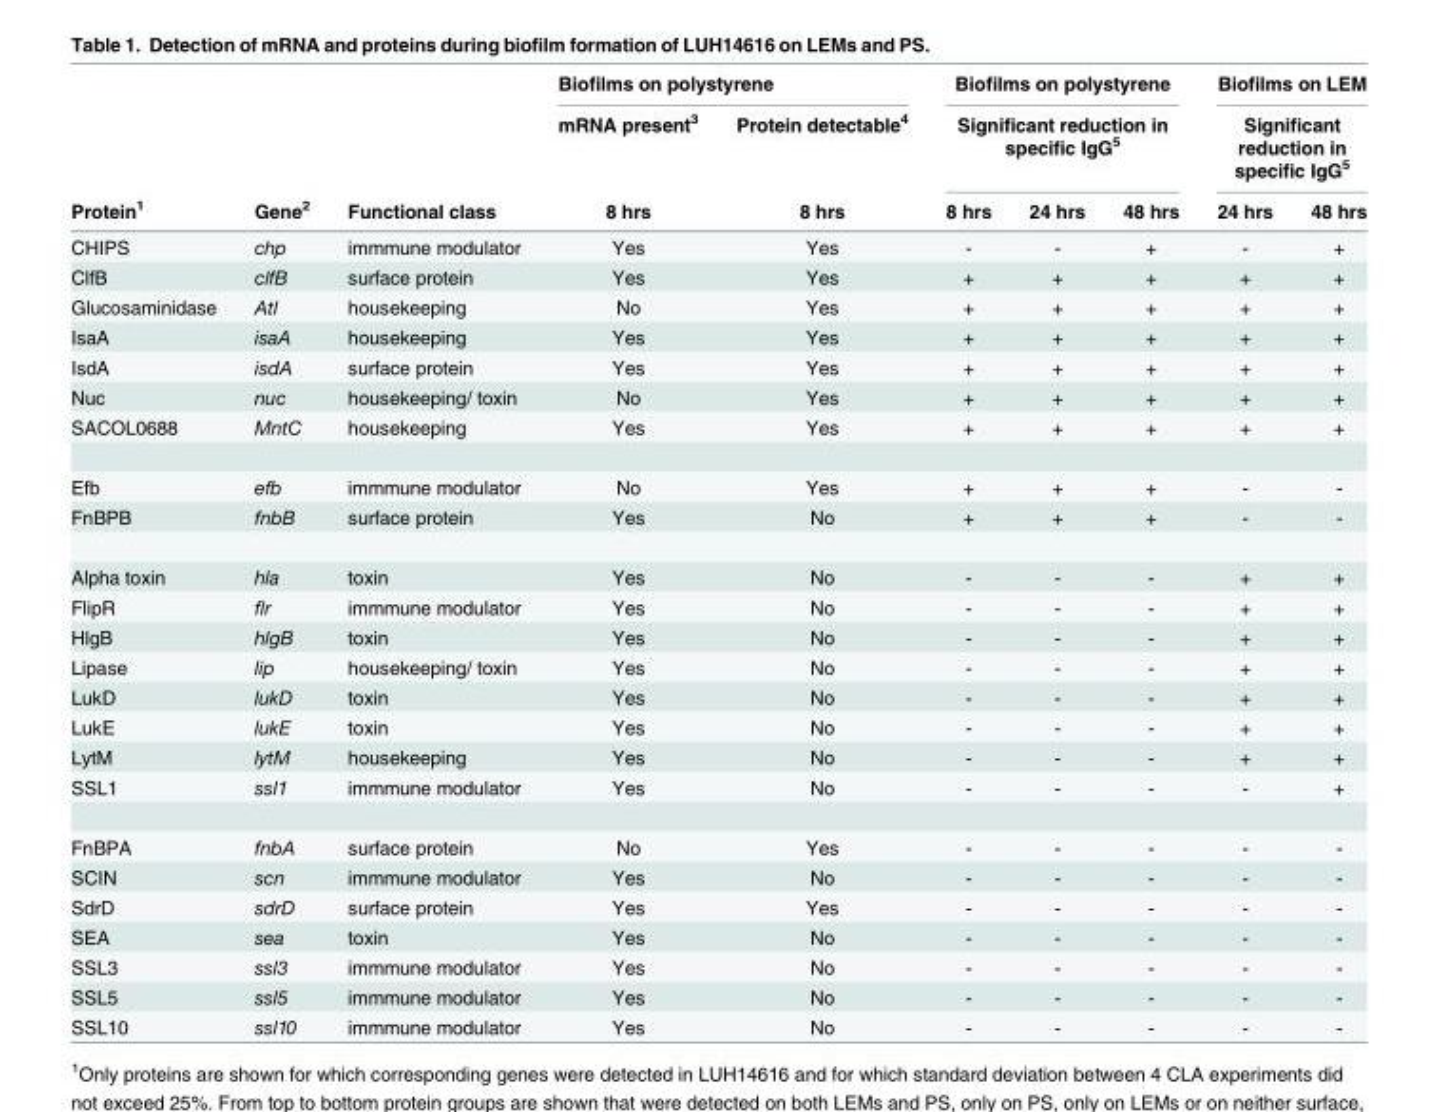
<table><thead><tr><td rowspan="3">Protein<sup>1</sup></td><td rowspan="3">Gene<sup>2</sup></td><td rowspan="3">Functional class</td><td colspan="2">Biofilms on polystyrene</td><td rowspan="2" colspan="3">Biofilms on polystyrene Significant reduction in specific IgG<sup>5</sup></td><td rowspan="2" colspan="2">Biofilms on LEM Significant reduction in specific IgG<sup>5</sup></td></tr><tr><td rowspan="2">mRNA present<sup>3</sup> 8 hrs</td><td rowspan="2">Protein detectable<sup>4</sup> 8 hrs</td></tr><tr><td>8 hrs</td><td>24 hrs</td><td>48 hrs</td><td>24 hrs</td><td>48 hrs</td></tr></thead><tbody><tr><td>CHIPS</td><td>chp</td><td>immmune modulator</td><td>Yes</td><td>Yes</td><td>-</td><td>-</td><td>+</td><td>-</td><td>+</td></tr><tr><td>ClfB</td><td>clfB</td><td>surface protein</td><td>Yes</td><td>Yes</td><td>+</td><td>+</td><td>+</td><td>+</td><td>+</td></tr><tr><td>Glucosaminidase</td><td>Atl</td><td>housekeeping</td><td>No</td><td>Yes</td><td>+</td><td>+</td><td>+</td><td>+</td><td>+</td></tr><tr><td>IsaA</td><td>isaA</td><td>housekeeping</td><td>Yes</td><td>Yes</td><td>+</td><td>+</td><td>+</td><td>+</td><td>+</td></tr><tr><td>IsdA</td><td>isdA</td><td>surface protein</td><td>Yes</td><td>Yes</td><td>+</td><td>+</td><td>+</td><td>+</td><td>+</td></tr><tr><td>Nuc</td><td>nuc</td><td>housekeeping/ toxin</td><td>No</td><td>Yes</td><td>+</td><td>+</td><td>+</td><td>+</td><td>+</td></tr><tr><td>SACOL0688</td><td>MntC</td><td>housekeeping</td><td>Yes</td><td>Yes</td><td>+</td><td>+</td><td>+</td><td>+</td><td>+</td></tr><tr><td>Efb</td><td>efb</td><td>immmune modulator</td><td>No</td><td>Yes</td><td>+</td><td>+</td><td>+</td><td>-</td><td>-</td></tr><tr><td>FnBPB</td><td>fnbB</td><td>surface protein</td><td>Yes</td><td>No</td><td>+</td><td>+</td><td>+</td><td>-</td><td>-</td></tr><tr><td>Alpha toxin</td><td>hla</td><td>toxin</td><td>Yes</td><td>No</td><td>-</td><td>-</td><td>-</td><td>+</td><td>+</td></tr><tr><td>FlipR</td><td>flr</td><td>immmune modulator</td><td>Yes</td><td>No</td><td>-</td><td>-</td><td>-</td><td>+</td><td>+</td></tr><tr><td>HlgB</td><td>hlgB</td><td>toxin</td><td>Yes</td><td>No</td><td>-</td><td>-</td><td>-</td><td>+</td><td>+</td></tr><tr><td>Lipase</td><td>lip</td><td>housekeeping/ toxin</td><td>Yes</td><td>No</td><td>-</td><td>-</td><td>-</td><td>+</td><td>+</td></tr><tr><td>LukD</td><td>lukD</td><td>toxin</td><td>Yes</td><td>No</td><td>-</td><td>-</td><td>-</td><td>+</td><td>+</td></tr><tr><td>LukE</td><td>lukE</td><td>toxin</td><td>Yes</td><td>No</td><td>-</td><td>-</td><td>-</td><td>+</td><td>+</td></tr><tr><td>LytM</td><td>lytM</td><td>housekeeping</td><td>Yes</td><td>No</td><td>-</td><td>-</td><td>-</td><td>+</td><td>+</td></tr><tr><td>SSL1</td><td>ssl1</td><td>immmune modulator</td><td>Yes</td><td>No</td><td>-</td><td>-</td><td>-</td><td>-</td><td>+</td></tr><tr><td>FnBPA</td><td>fnbA</td><td>surface protein</td><td>No</td><td>Yes</td><td>-</td><td>-</td><td>-</td><td>-</td><td>-</td></tr><tr><td>SCIN</td><td>scn</td><td>immmune modulator</td><td>Yes</td><td>No</td><td>-</td><td>-</td><td>-</td><td>-</td><td>-</td></tr><tr><td>SdrD</td><td>sdrD</td><td>surface protein</td><td>Yes</td><td>Yes</td><td>-</td><td>-</td><td>-</td><td>-</td><td>-</td></tr><tr><td>SEA</td><td>sea</td><td>toxin</td><td>Yes</td><td>No</td><td>-</td><td>-</td><td>-</td><td>-</td><td>-</td></tr><tr><td>SSL3</td><td>ssl3</td><td>immmune modulator</td><td>Yes</td><td>No</td><td>-</td><td>-</td><td>-</td><td>-</td><td>-</td></tr><tr><td>SSL5</td><td>ssl5</td><td>immmune modulator</td><td>Yes</td><td>No</td><td>-</td><td>-</td><td>-</td><td>-</td><td>-</td></tr><tr><td>SSL10</td><td>ssl10</td><td>immmune modulator</td><td>Yes</td><td>No</td><td>-</td><td>-</td><td>-</td><td>-</td><td>-</td></tr></tbody></table>